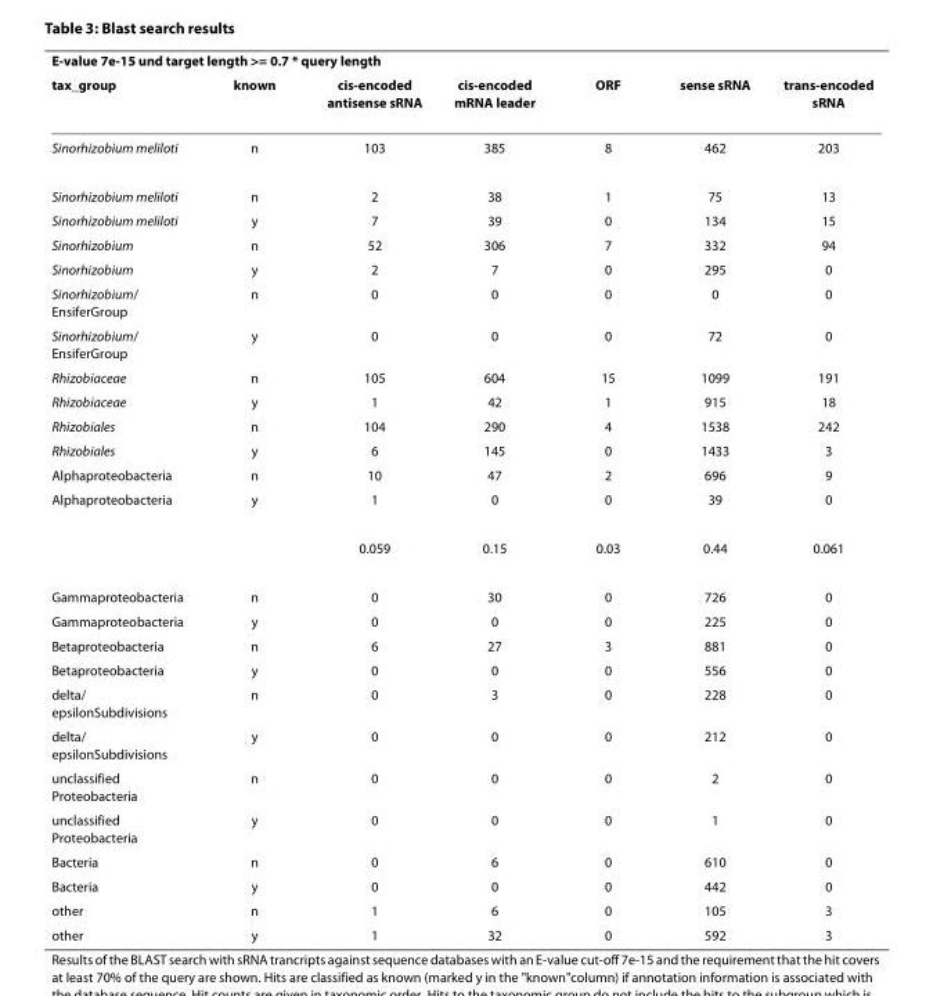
<table><thead><tr><td colspan="7">E-value 7e-15 und target length &gt;= 0.7 * query length</td></tr><tr><td>tax_group</td><td>known</td><td>cis-encoded antisense sRNA</td><td>cis-encoded mRNA leader</td><td>ORF</td><td>sense sRNA</td><td>trans-encoded sRNA</td></tr></thead><tbody><tr><td>Sinorhizobium meliloti</td><td>n</td><td>103</td><td>385</td><td>8</td><td>462</td><td>203</td></tr><tr><td>Sinorhizobium meliloti</td><td>n</td><td>2</td><td>38</td><td>1</td><td>75</td><td>13</td></tr><tr><td>Sinorhizobium meliloti</td><td>y</td><td>7</td><td>39</td><td>0</td><td>134</td><td>15</td></tr><tr><td>Sinorhizobium</td><td>n</td><td>52</td><td>306</td><td>7</td><td>332</td><td>94</td></tr><tr><td>Sinorhizobium</td><td>y</td><td>2</td><td>7</td><td>0</td><td>295</td><td>0</td></tr><tr><td>Sinorhizobium/ EnsiferGroup</td><td>n</td><td>0</td><td>0</td><td>0</td><td>0</td><td>0</td></tr><tr><td>Sinorhizobium/ EnsiferGroup</td><td>y</td><td>0</td><td>0</td><td>0</td><td>72</td><td>0</td></tr><tr><td>Rhizobiaceae</td><td>n</td><td>105</td><td>604</td><td>15</td><td>1099</td><td>191</td></tr><tr><td>Rhizobiaceae</td><td>y</td><td>1</td><td>42</td><td>1</td><td>915</td><td>18</td></tr><tr><td>Rhizobiales</td><td>n</td><td>104</td><td>290</td><td>4</td><td>1538</td><td>242</td></tr><tr><td>Rhizobiales</td><td>y</td><td>6</td><td>145</td><td>0</td><td>1433</td><td>3</td></tr><tr><td>Alphaproteobacteria</td><td>n</td><td>10</td><td>47</td><td>2</td><td>696</td><td>9</td></tr><tr><td rowspan="2">Alphaproteobacteria</td><td>y</td><td>1</td><td>0</td><td>0</td><td>39</td><td>0</td></tr><tr><td></td><td>0.059</td><td>0.15</td><td>0.03</td><td>0.44</td><td>0.061</td></tr><tr><td>Gammaproteobacteria</td><td>n</td><td>0</td><td>30</td><td>0</td><td>726</td><td>0</td></tr><tr><td>Gammaproteobacteria</td><td>y</td><td>0</td><td>0</td><td>0</td><td>225</td><td>0</td></tr><tr><td>Betaproteobacteria</td><td>n</td><td>6</td><td>27</td><td>3</td><td>881</td><td>0</td></tr><tr><td>Betaproteobacteria</td><td>y</td><td>0</td><td>0</td><td>0</td><td>556</td><td>0</td></tr><tr><td>delta/ epsilonSubdivisions</td><td>n</td><td>0</td><td>3</td><td>0</td><td>228</td><td>0</td></tr><tr><td>delta/ epsilonSubdivisions</td><td>y</td><td>0</td><td>0</td><td>0</td><td>212</td><td>0</td></tr><tr><td>unclassified Proteobacteria</td><td>n</td><td>0</td><td>0</td><td>0</td><td>2</td><td>0</td></tr><tr><td>unclassified Proteobacteria</td><td>y</td><td>0</td><td>0</td><td>0</td><td>1</td><td>0</td></tr><tr><td>Bacteria</td><td>n</td><td>0</td><td>6</td><td>0</td><td>610</td><td>0</td></tr><tr><td>Bacteria</td><td>y</td><td>0</td><td>0</td><td>0</td><td>442</td><td>0</td></tr><tr><td>other</td><td>n</td><td>1</td><td>6</td><td>0</td><td>105</td><td>3</td></tr><tr><td>other</td><td>y</td><td>1</td><td>32</td><td>0</td><td>592</td><td>3</td></tr></tbody></table>